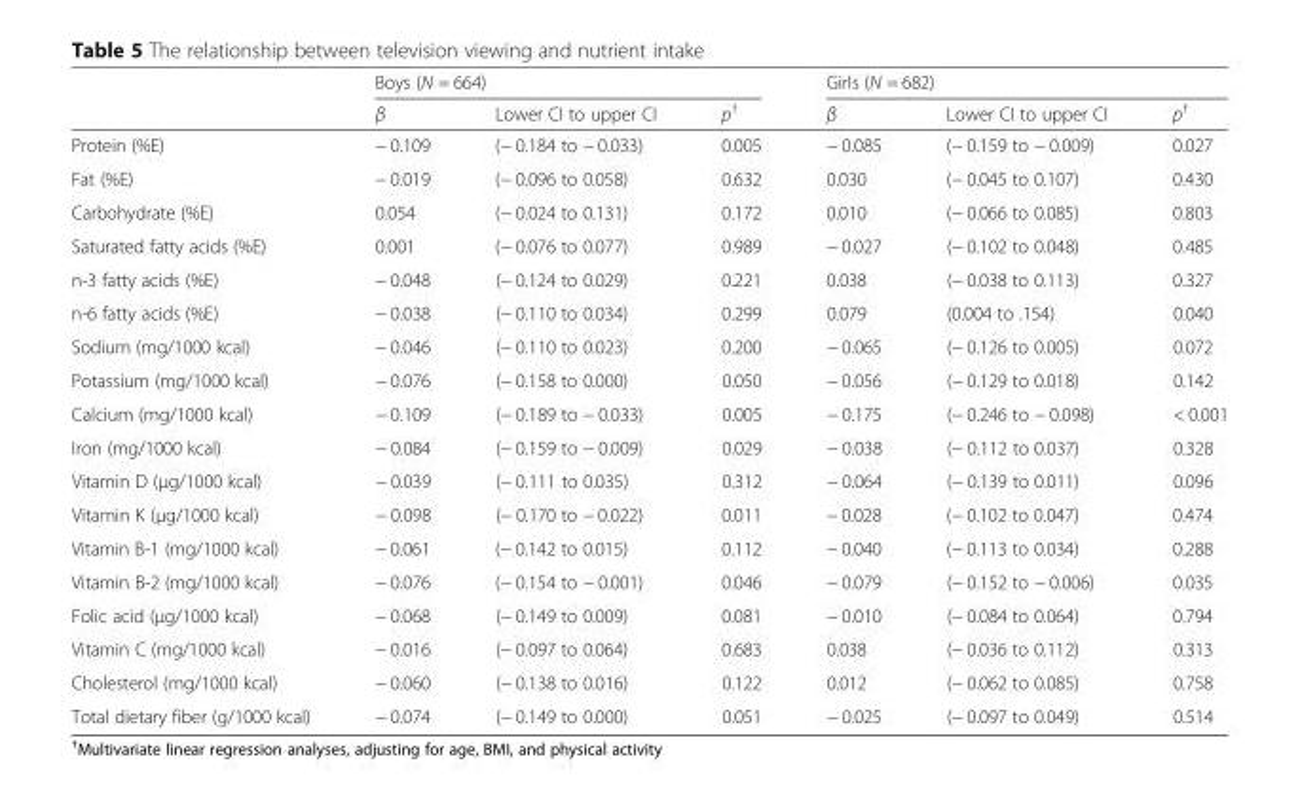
<table><thead><tr><td rowspan="2"></td><td colspan="3">Boys (N = 664)</td><td colspan="3">Girls (N = 682)</td></tr><tr><td>β</td><td>Lower CI to upper CI</td><td>p<sup>†</sup></td><td>β</td><td>Lower CI to upper CI</td><td>p<sup>†</sup></td></tr></thead><tbody><tr><td>Protein (%E)</td><td>− 0.109</td><td>(− 0.184 to − 0.033)</td><td>0.005</td><td>− 0.085</td><td>(− 0.159 to − 0.009)</td><td>0.027</td></tr><tr><td>Fat (%E)</td><td>− 0.019</td><td>(− 0.096 to 0.058)</td><td>0.632</td><td>0.030</td><td>(− 0.045 to 0.107)</td><td>0.430</td></tr><tr><td>Carbohydrate (%E)</td><td>0.054</td><td>(− 0.024 to 0.131)</td><td>0.172</td><td>0.010</td><td>(− 0.066 to 0.085)</td><td>0.803</td></tr><tr><td>Saturated fatty acids (%E)</td><td>0.001</td><td>(− 0.076 to 0.077)</td><td>0.989</td><td>− 0.027</td><td>(− 0.102 to 0.048)</td><td>0.485</td></tr><tr><td>n-3 fatty acids (%E)</td><td>− 0.048</td><td>(− 0.124 to 0.029)</td><td>0.221</td><td>0.038</td><td>(− 0.038 to 0.113)</td><td>0.327</td></tr><tr><td>n-6 fatty acids (%E)</td><td>− 0.038</td><td>(− 0.110 to 0.034)</td><td>0.299</td><td>0.079</td><td>(0.004 to .154)</td><td>0.040</td></tr><tr><td>Sodium (mg/1000 kcal)</td><td>− 0.046</td><td>(− 0.110 to 0.023)</td><td>0.200</td><td>− 0.065</td><td>(− 0.126 to 0.005)</td><td>0.072</td></tr><tr><td>Potassium (mg/1000 kcal)</td><td>− 0.076</td><td>(− 0.158 to 0.000)</td><td>0.050</td><td>− 0.056</td><td>(− 0.129 to 0.018)</td><td>0.142</td></tr><tr><td>Calcium (mg/1000 kcal)</td><td>− 0.109</td><td>(− 0.189 to − 0.033)</td><td>0.005</td><td>− 0.175</td><td>(− 0.246 to − 0.098)</td><td>&lt; 0.001</td></tr><tr><td>Iron (mg/1000 kcal)</td><td>− 0.084</td><td>(− 0.159 to − 0.009)</td><td>0.029</td><td>− 0.038</td><td>(− 0.112 to 0.037)</td><td>0.328</td></tr><tr><td>Vitamin D (μg/1000 kcal)</td><td>− 0.039</td><td>(− 0.111 to 0.035)</td><td>0.312</td><td>− 0.064</td><td>(− 0.139 to 0.011)</td><td>0.096</td></tr><tr><td>Vitamin K (μg/1000 kcal)</td><td>− 0.098</td><td>(− 0.170 to − 0.022)</td><td>0.011</td><td>− 0.028</td><td>(− 0.102 to 0.047)</td><td>0.474</td></tr><tr><td>Vitamin B-1 (mg/1000 kcal)</td><td>− 0.061</td><td>(− 0.142 to 0.015)</td><td>0.112</td><td>− 0.040</td><td>(− 0.113 to 0.034)</td><td>0.288</td></tr><tr><td>Vitamin B-2 (mg/1000 kcal)</td><td>− 0.076</td><td>(− 0.154 to − 0.001)</td><td>0.046</td><td>− 0.079</td><td>(− 0.152 to − 0.006)</td><td>0.035</td></tr><tr><td>Folic acid (μg/1000 kcal)</td><td>− 0.068</td><td>(− 0.149 to 0.009)</td><td>0.081</td><td>− 0.010</td><td>(− 0.084 to 0.064)</td><td>0.794</td></tr><tr><td>Vitamin C (mg/1000 kcal)</td><td>− 0.016</td><td>(− 0.097 to 0.064)</td><td>0.683</td><td>0.038</td><td>(− 0.036 to 0.112)</td><td>0.313</td></tr><tr><td>Cholesterol (mg/1000 kcal)</td><td>− 0.060</td><td>(− 0.138 to 0.016)</td><td>0.122</td><td>0.012</td><td>(− 0.062 to 0.085)</td><td>0.758</td></tr><tr><td>Total dietary fiber (g/1000 kcal)</td><td>− 0.074</td><td>(− 0.149 to 0.000)</td><td>0.051</td><td>− 0.025</td><td>(− 0.097 to 0.049)</td><td>0.514</td></tr></tbody></table>